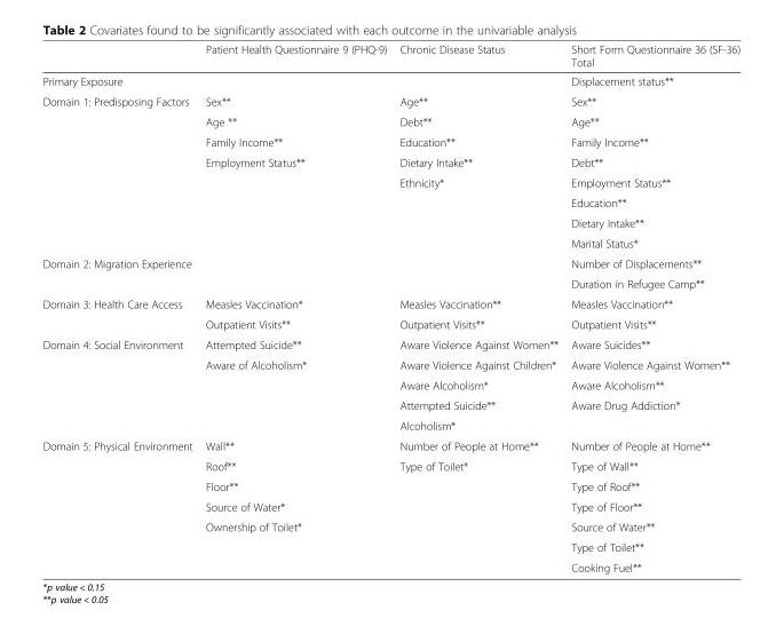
<table><thead><tr><td></td><td>Patient Health Questionnaire 9 (PHQ-9)</td><td>Chronic Disease Status</td><td>Short Form Questionnaire 36 (SF-36) Total</td></tr></thead><tbody><tr><td>Primary Exposure</td><td></td><td></td><td>Displacement status**</td></tr><tr><td rowspan="8">Domain 1: Predisposing Factors</td><td>Sex**</td><td>Age**</td><td>Sex**</td></tr><tr><td>Age **</td><td>Debt**</td><td>Age**</td></tr><tr><td>Family Income**</td><td>Education**</td><td>Family Income**</td></tr><tr><td>Employment Status**</td><td>Dietary Intake**</td><td>Debt**</td></tr><tr><td></td><td>Ethnicity*</td><td>Employment Status**</td></tr><tr><td></td><td></td><td>Education**</td></tr><tr><td></td><td></td><td>Dietary Intake**</td></tr><tr><td></td><td></td><td>Marital Status*</td></tr><tr><td rowspan="2">Domain 2: Migration Experience</td><td></td><td></td><td>Number of Displacements**</td></tr><tr><td></td><td></td><td>Duration in Refugee Camp**</td></tr><tr><td rowspan="2">Domain 3: Health Care Access</td><td>Measles Vaccination*</td><td>Measles Vaccination**</td><td>Measles Vaccination**</td></tr><tr><td>Outpatient Visits**</td><td>Outpatient Visits**</td><td>Outpatient Visits**</td></tr><tr><td rowspan="5">Domain 4: Social Environment</td><td>Attempted Suicide**</td><td>Aware Violence Against Women**</td><td>Aware Suicides**</td></tr><tr><td>Aware of Alcoholism*</td><td>Aware Violence Against Children*</td><td>Aware Violence Against Women**</td></tr><tr><td></td><td>Aware Alcoholism*</td><td>Aware Alcoholism**</td></tr><tr><td></td><td>Attempted Suicide**</td><td>Aware Drug Addiction*</td></tr><tr><td></td><td>Alcoholism*</td><td></td></tr><tr><td rowspan="7">Domain 5: Physical Environment</td><td>Wall**</td><td>Number of People at Home**</td><td>Number of People at Home**</td></tr><tr><td>Roof**</td><td>Type of Toilet*</td><td>Type of Wall**</td></tr><tr><td>Floor**</td><td></td><td>Type of Roof**</td></tr><tr><td>Source of Water*</td><td></td><td>Type of Floor**</td></tr><tr><td>Ownership of Toilet*</td><td></td><td>Source of Water**</td></tr><tr><td></td><td></td><td>Type of Toilet**</td></tr><tr><td></td><td></td><td>Cooking Fuel**</td></tr></tbody></table>